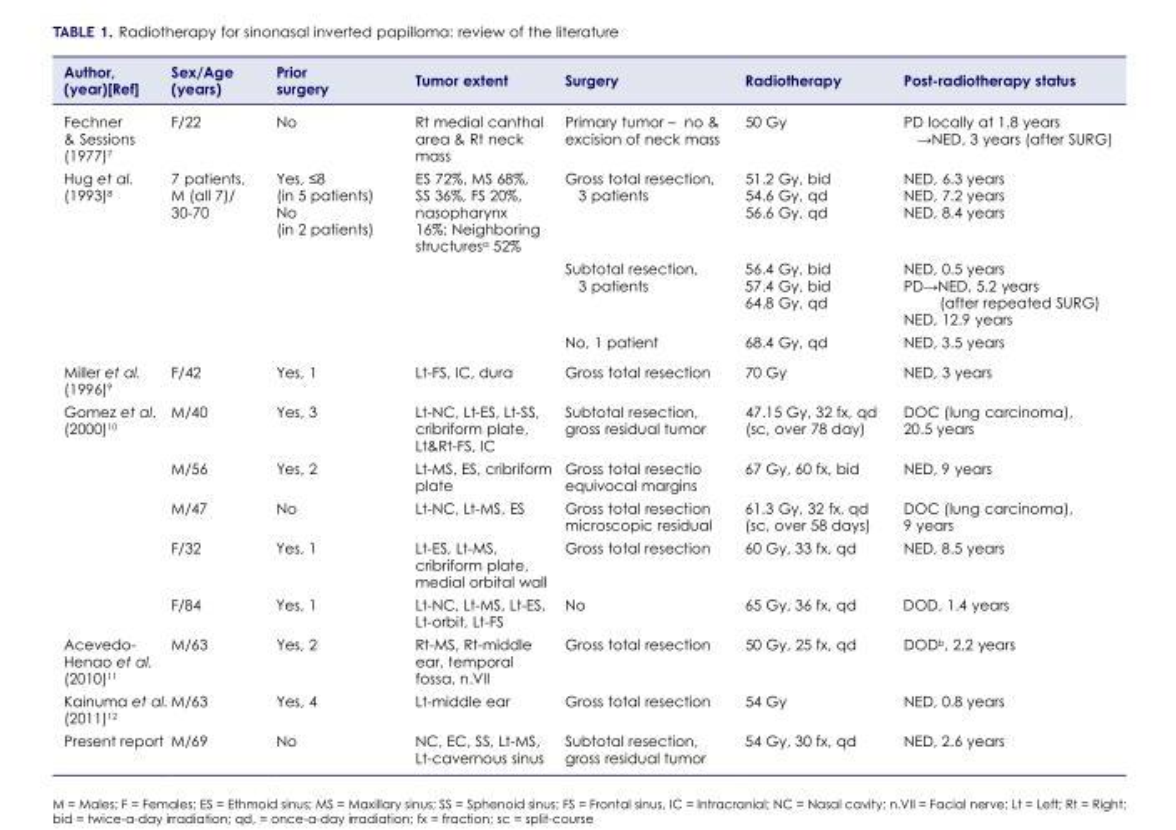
<table><thead><tr><td>Author, (year)[Ref]</td><td>Sex/Age (years)</td><td>Prior surgery</td><td>Tumor extent</td><td>Surgery</td><td>Radiotherapy</td><td>Post-radiotherapy status</td></tr></thead><tbody><tr><td>Fechner &amp; Sessions (1977)<sup>7</sup></td><td>F/22</td><td>No</td><td>Rt medial canthal area &amp; Rt neck mass</td><td>Primary tumor – no &amp; excision of neck mass</td><td>50 Gy</td><td>PD locally at 1.8 years →NED, 3 years (after SURG)</td></tr><tr><td rowspan="3">Hug et al. (1993)<sup>8</sup></td><td rowspan="3">7 patients, M (all 7)/ 30-70</td><td rowspan="3">Yes, ≤8 (in 5 patients) No (in 2 patients)</td><td rowspan="3">ES 72%, MS 68%, SS 36%, FS 20%, nasopharynx 16%; Neighboring structures<sup>a</sup> 52%</td><td>Gross total resection, 3 patients</td><td>51.2 Gy, bid 54.6 Gy, qd 56.6 Gy, qd</td><td>NED, 6.3 years NED, 7.2 years NED, 8.4 years</td></tr><tr><td>Subtotal resection, 3 patients</td><td>56.4 Gy, bid 57.4 Gy, bid 64.8 Gy, qd</td><td>NED, 0.5 years PD→NED, 5.2 years (after repeated SURG) NED, 12.9 years</td></tr><tr><td>No, 1 patient</td><td>68.4 Gy, qd</td><td>NED, 3.5 years</td></tr><tr><td>Miller et al. (1996)<sup>9</sup></td><td>F/42</td><td>Yes, 1</td><td>Lt-FS, IC, dura</td><td>Gross total resection</td><td>70 Gy</td><td>NED, 3 years</td></tr><tr><td rowspan="5">Gomez et al. (2000)<sup>10</sup></td><td>M/40</td><td>Yes, 3</td><td>Lt-NC, Lt-ES, Lt-SS, cribriform plate, Lt&amp;Rt-FS, IC</td><td>Subtotal resection, gross residual tumor</td><td>47.15 Gy, 32 fx, qd (sc, over 78 day)</td><td>DOC (lung carcinoma), 20.5 years</td></tr><tr><td>M/56</td><td>Yes, 2</td><td>Lt-MS, ES, cribriform plate</td><td>Gross total resectio equivocal margins</td><td>67 Gy, 60 fx, bid</td><td>NED, 9 years</td></tr><tr><td>M/47</td><td>No</td><td>Lt-NC, Lt-MS, ES</td><td>Gross total resection microscopic residual</td><td>61.3 Gy, 32 fx, qd (sc, over 58 days)</td><td>DOC (lung carcinoma), 9 years</td></tr><tr><td>F/32</td><td>Yes, 1</td><td>Lt-ES, Lt-MS, cribriform plate, medial orbital wall</td><td>Gross total resection</td><td>60 Gy, 33 fx, qd</td><td>NED, 8.5 years</td></tr><tr><td>F/84</td><td>Yes, 1</td><td>Lt-NC, Lt-MS, Lt-ES, Lt-orbit, Lt-FS</td><td>No</td><td>65 Gy, 36 fx, qd</td><td>DOD, 1.4 years</td></tr><tr><td>Acevedo- Henao et al. (2010)<sup>11</sup></td><td>M/63</td><td>Yes, 2</td><td>Rt-MS, Rt-middle ear, temporal fossa, n.VII</td><td>Gross total resection</td><td>50 Gy, 25 fx, qd</td><td>DOD<sup>b</sup>, 2.2 years</td></tr><tr><td>Kainuma et al. (2011)<sup>12</sup></td><td>M/63</td><td>Yes, 4</td><td>Lt-middle ear</td><td>Gross total resection</td><td>54 Gy</td><td>NED, 0.8 years</td></tr><tr><td>Present report</td><td>M/69</td><td>No</td><td>NC, EC, SS, Lt-MS, Lt-cavernous sinus</td><td>Subtotal resection, gross residual tumor</td><td>54 Gy, 30 fx, qd</td><td>NED, 2.6 years</td></tr></tbody></table>